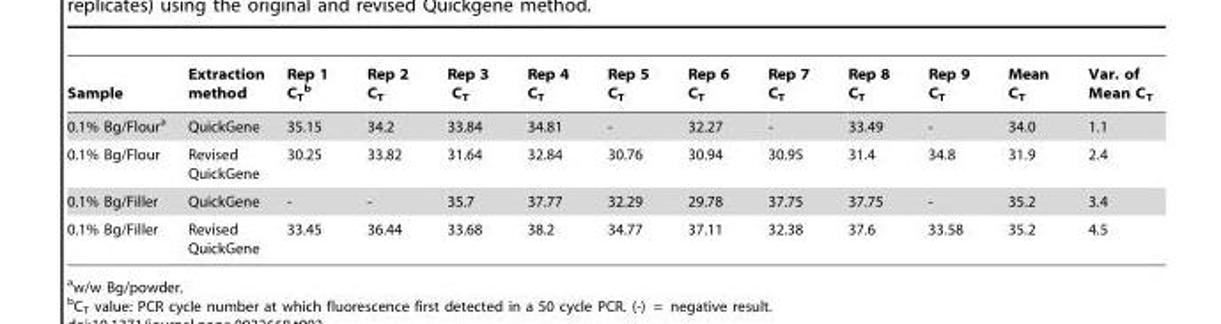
<table><thead><tr><td>Sample</td><td>Extraction method</td><td>Rep 1 C<sub>T</sub> b</td><td>Rep 2 C<sub>T</sub></td><td>Rep 3 C<sub>T</sub></td><td>Rep 4 C<sub>T</sub></td><td>Rep 5 C<sub>T</sub></td><td>Rep 6 C<sub>T</sub></td><td>Rep 7 C<sub>T</sub></td><td>Rep 8 C<sub>T</sub></td><td>Rep 9 C<sub>T</sub></td><td>Mean C<sub>T</sub></td><td>Var. of Mean C<sub>T</sub></td></tr></thead><tbody><tr><td>0.1% Bg/Flour<sup>a</sup></td><td>QuickGene</td><td>35.15</td><td>34.2</td><td>33.84</td><td>34.81</td><td>-</td><td>32.27</td><td>-</td><td>33.49</td><td>-</td><td>34.0</td><td>1.1</td></tr><tr><td>0.1% Bg/Flour</td><td>Revised QuickGene</td><td>30.25</td><td>33.82</td><td>31.64</td><td>32.84</td><td>30.76</td><td>30.94</td><td>30.95</td><td>31.4</td><td>34.8</td><td>31.9</td><td>2.4</td></tr><tr><td>0.1% Bg/Filler</td><td>QuickGene</td><td>-</td><td>-</td><td>35.7</td><td>37.77</td><td>32.29</td><td>29.78</td><td>37.75</td><td>37.75</td><td>-</td><td>35.2</td><td>3.4</td></tr><tr><td>0.1% Bg/Filler</td><td>Revised QuickGene</td><td>33.45</td><td>36.44</td><td>33.68</td><td>38.2</td><td>34.77</td><td>37.11</td><td>32.38</td><td>37.6</td><td>33.58</td><td>35.2</td><td>4.5</td></tr></tbody></table>